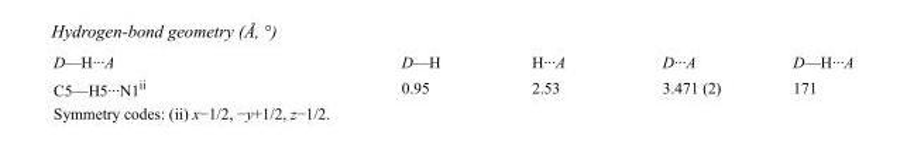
<table><tbody><tr><td>D—H···A</td><td>D—H</td><td>H···A</td><td>D···A</td><td>D—H···A</td></tr><tr><td>C5—H5···N1<sup>ii</sup></td><td>0.95</td><td>2.53</td><td>3.471 (2)</td><td>171</td></tr></tbody></table>